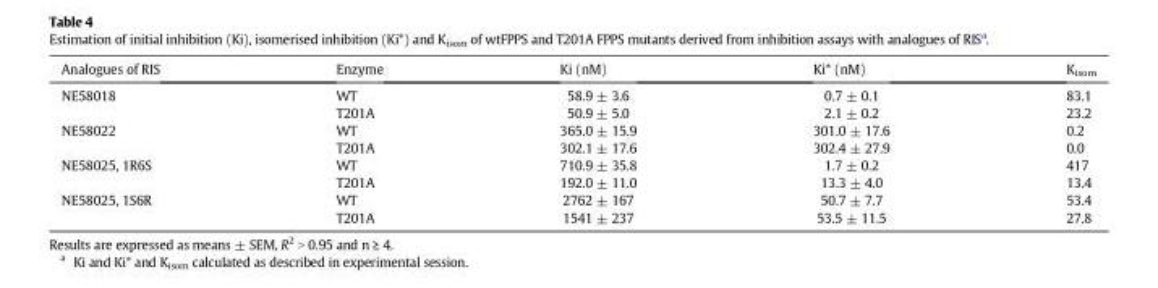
<table><thead><tr><td>Analogues of RIS</td><td>Enzyme</td><td>Ki (nM)</td><td>Ki* (nM)</td><td>K<sub>isom</sub></td></tr></thead><tbody><tr><td>NE58018</td><td>WT T201A</td><td>58.9 ± 3.6 50.9 ± 5.0</td><td>0.7 ± 0.1 2.1 ± 0.2</td><td>83.1 23.2</td></tr><tr><td>NE58022</td><td>WT T201A</td><td>365.0 ± 15.9 302.1 ± 17.6</td><td>301.0 ± 17.6 302.4 ± 27.9</td><td>0.2 0.0</td></tr><tr><td>NE58025, 1R6S</td><td>WT T201A</td><td>710.9 ± 35.8 192.0 ± 11.0</td><td>1.7 ± 0.2 13.3 ± 4.0</td><td>417 13.4</td></tr><tr><td>NE58025, 1S6R</td><td>WT T201A</td><td>2762 ± 167 1541 ± 237</td><td>50.7 ± 7.7 53.5 ± 11.5</td><td>53.4 27.8</td></tr></tbody></table>